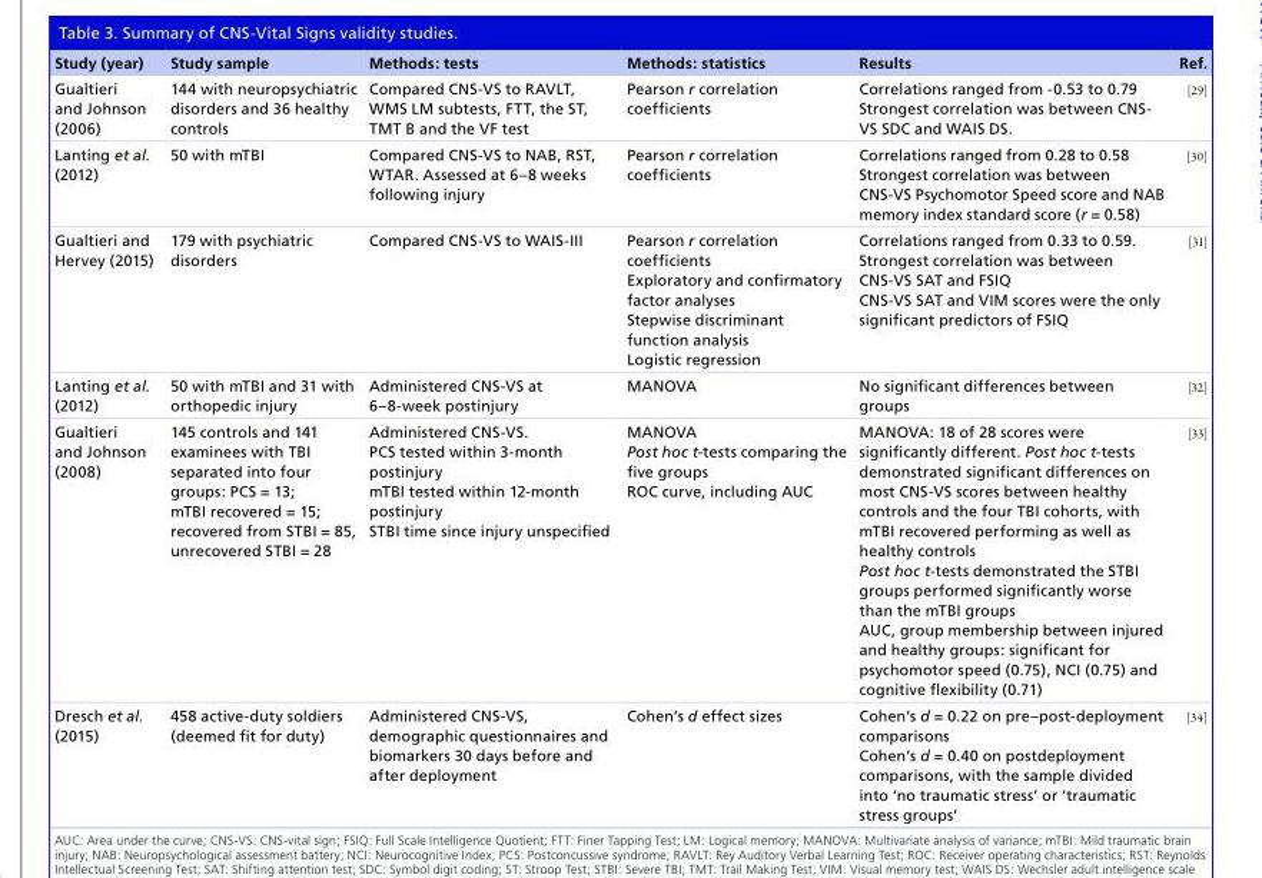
<table><thead><tr><td>Study (year)</td><td>Study sample</td><td>Methods: tests</td><td>Methods: statistics</td><td>Results</td><td>Ref.</td></tr></thead><tbody><tr><td>Gualtieri and Johnson (2006)</td><td>144 with neuropsychiatric disorders and 36 healthy controls</td><td>Compared CNS-VS to RAVLT, WMS LM subtests, FTT, the ST, TMT B and the VF test</td><td>Pearson r correlation coefficients</td><td>Correlations ranged from -0.53 to 0.79 Strongest correlation was between CNS- VS SDC and WAIS DS.</td><td>[29]</td></tr><tr><td>Lanting et al. (2012)</td><td>50 with mTBI</td><td>Compared CNS-VS to NAB, RST, WTAR. Assessed at 6–8 weeks following injury</td><td>Pearson r correlation coefficients</td><td>Correlations ranged from 0.28 to 0.58 Strongest correlation was between CNS-VS Psychomotor Speed score and NAB memory index standard score (r = 0.58)</td><td>[30]</td></tr><tr><td>Gualtieri and Hervey (2015)</td><td>179 with psychiatric disorders</td><td>Compared CNS-VS to WAIS-III</td><td>Pearson r correlation coefficients Exploratory and confirmatory factor analyses Stepwise discriminant function analysis Logistic regression</td><td>Correlations ranged from 0.33 to 0.59. Strongest correlation was between CNS-VS SAT and FSIQ CNS-VS SAT and VIM scores were the only significant predictors of FSIQ</td><td>[31]</td></tr><tr><td>Lanting et al. (2012)</td><td>50 with mTBI and 31 with orthopedic injury</td><td>Administered CNS-VS at 6–8-week postinjury</td><td>MANOVA</td><td>No significant differences between groups</td><td>[32]</td></tr><tr><td>Gualtieri and Johnson (2008)</td><td>145 controls and 141 examinees with TBI separated into four groups: PCS = 13; mTBI recovered = 15; recovered from STBI = 85, unrecovered STBI = 28</td><td>Administered CNS-VS. PCS tested within 3-month postinjury mTBI tested within 12-month postinjury STBI time since injury unspecified</td><td>MANOVA Post hoc t-tests comparing the five groups ROC curve, including AUC</td><td>MANOVA: 18 of 28 scores were significantly different. Post hoc t-tests demonstrated significant differences on most CNS-VS scores between healthy controls and the four TBI cohorts, with mTBI recovered performing as well as healthy controls Post hoc t-tests demonstrated the STBI groups performed significantly worse than the mTBI groups AUC, group membership between injured and healthy groups: significant for psychomotor speed (0.75), NCI (0.75) and cognitive flexibility (0.71)</td><td>[33]</td></tr><tr><td>Dresch et al. (2015)</td><td>458 active-duty soldiers (deemed fit for duty)</td><td>Administered CNS-VS, demographic questionnaires and biomarkers 30 days before and after deployment</td><td>Cohen’s d effect sizes</td><td>Cohen’s d = 0.22 on pre–post-deployment comparisons Cohen’s d = 0.40 on postdeployment comparisons, with the sample divided into ‘no traumatic stress’ or ‘traumatic stress groups’</td><td>[34]</td></tr></tbody></table>